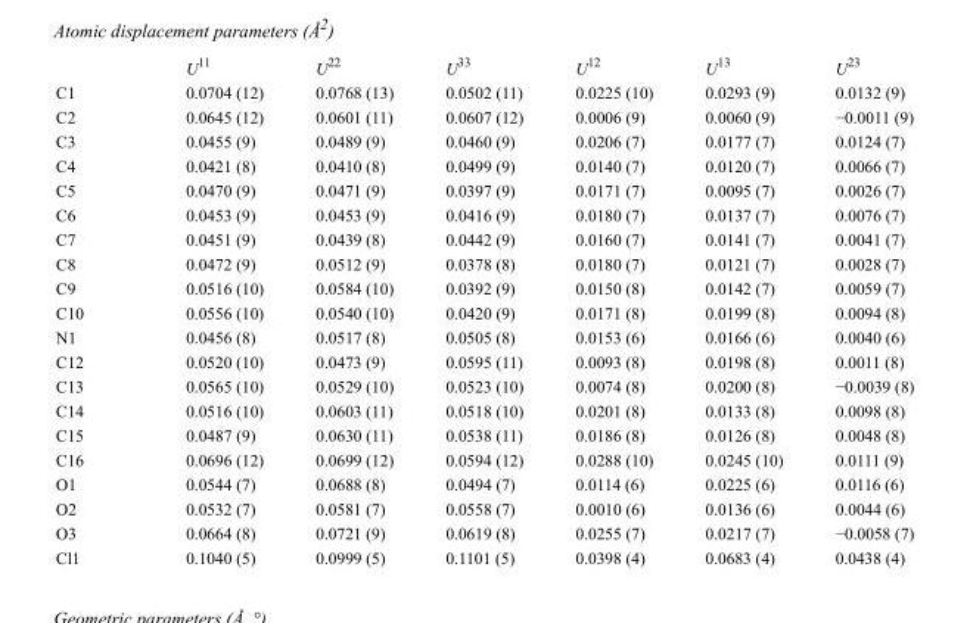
<table><thead><tr><td></td><td>U<sup>11</sup></td><td>U<sup>22</sup></td><td>U<sup>33</sup></td><td>U<sup>12</sup></td><td>U<sup>13</sup></td><td>U<sup>23</sup></td></tr></thead><tbody><tr><td>C1</td><td>0.0704 (12)</td><td>0.0768 (13)</td><td>0.0502 (11)</td><td>0.0225 (10)</td><td>0.0293 (9)</td><td>0.0132 (9)</td></tr><tr><td>C2</td><td>0.0645 (12)</td><td>0.0601 (11)</td><td>0.0607 (12)</td><td>0.0006 (9)</td><td>0.0060 (9)</td><td>−0.0011 (9)</td></tr><tr><td>C3</td><td>0.0455 (9)</td><td>0.0489 (9)</td><td>0.0460 (9)</td><td>0.0206 (7)</td><td>0.0177 (7)</td><td>0.0124 (7)</td></tr><tr><td>C4</td><td>0.0421 (8)</td><td>0.0410 (8)</td><td>0.0499 (9)</td><td>0.0140 (7)</td><td>0.0120 (7)</td><td>0.0066 (7)</td></tr><tr><td>C5</td><td>0.0470 (9)</td><td>0.0471 (9)</td><td>0.0397 (9)</td><td>0.0171 (7)</td><td>0.0095 (7)</td><td>0.0026 (7)</td></tr><tr><td>C6</td><td>0.0453 (9)</td><td>0.0453 (9)</td><td>0.0416 (9)</td><td>0.0180 (7)</td><td>0.0137 (7)</td><td>0.0076 (7)</td></tr><tr><td>C7</td><td>0.0451 (9)</td><td>0.0439 (8)</td><td>0.0442 (9)</td><td>0.0160 (7)</td><td>0.0141 (7)</td><td>0.0041 (7)</td></tr><tr><td>C8</td><td>0.0472 (9)</td><td>0.0512 (9)</td><td>0.0378 (8)</td><td>0.0180 (7)</td><td>0.0121 (7)</td><td>0.0028 (7)</td></tr><tr><td>C9</td><td>0.0516 (10)</td><td>0.0584 (10)</td><td>0.0392 (9)</td><td>0.0150 (8)</td><td>0.0142 (7)</td><td>0.0059 (7)</td></tr><tr><td>C10</td><td>0.0556 (10)</td><td>0.0540 (10)</td><td>0.0420 (9)</td><td>0.0171 (8)</td><td>0.0199 (8)</td><td>0.0094 (8)</td></tr><tr><td>N1</td><td>0.0456 (8)</td><td>0.0517 (8)</td><td>0.0505 (8)</td><td>0.0153 (6)</td><td>0.0166 (6)</td><td>0.0040 (6)</td></tr><tr><td>C12</td><td>0.0520 (10)</td><td>0.0473 (9)</td><td>0.0595 (11)</td><td>0.0093 (8)</td><td>0.0198 (8)</td><td>0.0011 (8)</td></tr><tr><td>C13</td><td>0.0565 (10)</td><td>0.0529 (10)</td><td>0.0523 (10)</td><td>0.0074 (8)</td><td>0.0200 (8)</td><td>−0.0039 (8)</td></tr><tr><td>C14</td><td>0.0516 (10)</td><td>0.0603 (11)</td><td>0.0518 (10)</td><td>0.0201 (8)</td><td>0.0133 (8)</td><td>0.0098 (8)</td></tr><tr><td>C15</td><td>0.0487 (9)</td><td>0.0630 (11)</td><td>0.0538 (11)</td><td>0.0186 (8)</td><td>0.0126 (8)</td><td>0.0048 (8)</td></tr><tr><td>C16</td><td>0.0696 (12)</td><td>0.0699 (12)</td><td>0.0594 (12)</td><td>0.0288 (10)</td><td>0.0245 (10)</td><td>0.0111 (9)</td></tr><tr><td>O1</td><td>0.0544 (7)</td><td>0.0688 (8)</td><td>0.0494 (7)</td><td>0.0114 (6)</td><td>0.0225 (6)</td><td>0.0116 (6)</td></tr><tr><td>O2</td><td>0.0532 (7)</td><td>0.0581 (7)</td><td>0.0558 (7)</td><td>0.0010 (6)</td><td>0.0136 (6)</td><td>0.0044 (6)</td></tr><tr><td>O3</td><td>0.0664 (8)</td><td>0.0721 (9)</td><td>0.0619 (8)</td><td>0.0255 (7)</td><td>0.0217 (7)</td><td>−0.0058 (7)</td></tr><tr><td>Cl1</td><td>0.1040 (5)</td><td>0.0999 (5)</td><td>0.1101 (5)</td><td>0.0398 (4)</td><td>0.0683 (4)</td><td>0.0438 (4)</td></tr></tbody></table>